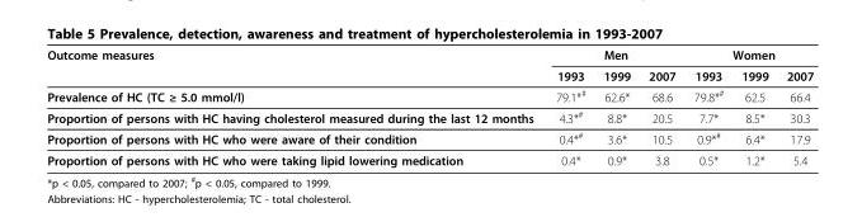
<table><thead><tr><td rowspan="2">Outcome measures</td><td colspan="3">Men</td><td colspan="3">Women</td></tr><tr><td>1993</td><td>1999</td><td>2007</td><td>1993</td><td>1999</td><td>2007</td></tr></thead><tbody><tr><td>Prevalence of HC (TC ≥ 5.0 mmol/l)</td><td>79.1*<sup>#</sup></td><td>62.6*</td><td>68.6</td><td>79.8*<sup>#</sup></td><td>62.5</td><td>66.4</td></tr><tr><td>Proportion of persons with HC having cholesterol measured during the last 12 months</td><td>4.3*<sup>#</sup></td><td>8.8*</td><td>20.5</td><td>7.7*</td><td>8.5*</td><td>30.3</td></tr><tr><td>Proportion of persons with HC who were aware of their condition</td><td>0.4*<sup>#</sup></td><td>3.6*</td><td>10.5</td><td>0.9*<sup>#</sup></td><td>6.4*</td><td>17.9</td></tr><tr><td>Proportion of persons with HC who were taking lipid lowering medication</td><td>0.4*</td><td>0.9*</td><td>3.8</td><td>0.5*</td><td>1.2*</td><td>5.4</td></tr></tbody></table>